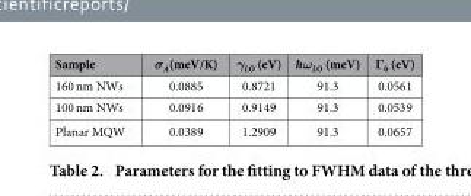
<table><thead><tr><td>Sample</td><td>σ<sub>A</sub>(meV/K)</td><td>γ<sub>LO</sub> (eV)</td><td>ħω<sub>LO (meV)</sub></td><td>Γ<sub>0</sub> (eV)</td></tr></thead><tbody><tr><td>160 nm NWs</td><td>0.0885</td><td>0.8721</td><td>91.3</td><td>0.0561</td></tr><tr><td>100 nm NWs</td><td>0.0916</td><td>0.9149</td><td>91.3</td><td>0.0539</td></tr><tr><td>Planar MQW</td><td>0.0389</td><td>1.2909</td><td>91.3</td><td>0.0657</td></tr></tbody></table>